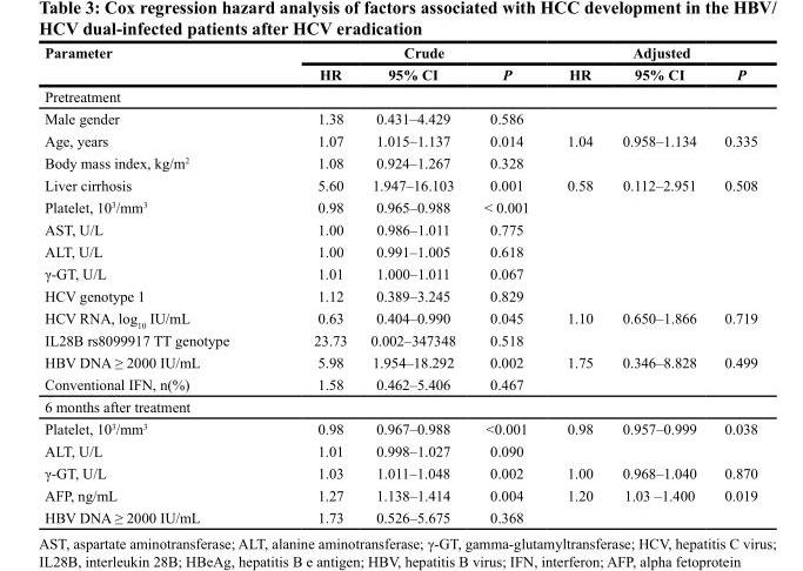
<table><thead><tr><td rowspan="2">Parameter</td><td colspan="3">Crude</td><td colspan="3">Adjusted</td></tr><tr><td>HR</td><td>95% CI</td><td>P</td><td>HR</td><td>95% CI</td><td>P</td></tr></thead><tbody><tr><td colspan="7">Pretreatment</td></tr><tr><td>Male gender</td><td>1.38</td><td>0.431–4.429</td><td>0.586</td><td></td><td></td><td></td></tr><tr><td>Age, years</td><td>1.07</td><td>1.015–1.137</td><td>0.014</td><td>1.04</td><td>0.958–1.134</td><td>0.335</td></tr><tr><td>Body mass index, kg/m<sup>2</sup></td><td>1.08</td><td>0.924–1.267</td><td>0.328</td><td></td><td></td><td></td></tr><tr><td>Liver cirrhosis</td><td>5.60</td><td>1.947–16.103</td><td>0.001</td><td>0.58</td><td>0.112–2.951</td><td>0.508</td></tr><tr><td>Platelet, 10<sup>3</sup>/mm<sup>3</sup></td><td>0.98</td><td>0.965–0.988</td><td>&lt; 0.001</td><td></td><td></td><td></td></tr><tr><td>AST, U/L</td><td>1.00</td><td>0.986–1.011</td><td>0.775</td><td></td><td></td><td></td></tr><tr><td>ALT, U/L</td><td>1.00</td><td>0.991–1.005</td><td>0.618</td><td></td><td></td><td></td></tr><tr><td>γ-GT, U/L</td><td>1.01</td><td>1.000–1.011</td><td>0.067</td><td></td><td></td><td></td></tr><tr><td>HCV genotype 1</td><td>1.12</td><td>0.389–3.245</td><td>0.829</td><td></td><td></td><td></td></tr><tr><td>HCV RNA, log<sub>10</sub> IU/mL</td><td>0.63</td><td>0.404–0.990</td><td>0.045</td><td>1.10</td><td>0.650–1.866</td><td>0.719</td></tr><tr><td>IL28B rs8099917 TT genotype</td><td>23.73</td><td>0.002–347348</td><td>0.518</td><td></td><td></td><td></td></tr><tr><td>HBV DNA ≥ 2000 IU/mL</td><td>5.98</td><td>1.954–18.292</td><td>0.002</td><td>1.75</td><td>0.346–8.828</td><td>0.499</td></tr><tr><td>Conventional IFN, n(%)</td><td>1.58</td><td>0.462–5.406</td><td>0.467</td><td></td><td></td><td></td></tr><tr><td colspan="7">6 months after treatment</td></tr><tr><td>Platelet, 10<sup>3</sup>/mm<sup>3</sup></td><td>0.98</td><td>0.967–0.988</td><td>&lt;0.001</td><td>0.98</td><td>0.957–0.999</td><td>0.038</td></tr><tr><td>ALT, U/L</td><td>1.01</td><td>0.998–1.027</td><td>0.090</td><td></td><td></td><td></td></tr><tr><td>γ-GT, U/L</td><td>1.03</td><td>1.011–1.048</td><td>0.002</td><td>1.00</td><td>0.968–1.040</td><td>0.870</td></tr><tr><td>AFP, ng/mL</td><td>1.27</td><td>1.138–1.414</td><td>0.004</td><td>1.20</td><td>1.03 –1.400</td><td>0.019</td></tr><tr><td>HBV DNA ≥ 2000 IU/mL</td><td>1.73</td><td>0.526–5.675</td><td>0.368</td><td></td><td></td><td></td></tr></tbody></table>